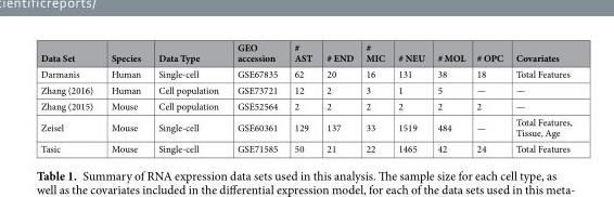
<table><thead><tr><td>Data Set</td><td>Species</td><td>Data Type</td><td>GEO accession</td><td># AST</td><td># END</td><td># MIC</td><td># NEU</td><td># MOL</td><td># OPC</td><td>Covariates</td></tr></thead><tbody><tr><td>Darmanis</td><td>Human</td><td>Single-cell</td><td>GSE67835</td><td>62</td><td>20</td><td>16</td><td>131</td><td>38</td><td>18</td><td>Total Features</td></tr><tr><td>Zhang (2016)</td><td>Human</td><td>Cell population</td><td>GSE73721</td><td>12</td><td>2</td><td>3</td><td>1</td><td>5</td><td>—</td><td>—</td></tr><tr><td>Zhang (2015)</td><td>Mouse</td><td>Cell population</td><td>GSE52564</td><td>2</td><td>2</td><td>2</td><td>2</td><td>2</td><td>2</td><td>—</td></tr><tr><td>Zeisel</td><td>Mouse</td><td>Single-cell</td><td>GSE60361</td><td>129</td><td>137</td><td>33</td><td>1519</td><td>484</td><td>—</td><td>Total Features, Tissue, Age</td></tr><tr><td>Tasic</td><td>Mouse</td><td>Single-cell</td><td>GSE71585</td><td>50</td><td>21</td><td>22</td><td>1465</td><td>42</td><td>24</td><td>Total Features</td></tr></tbody></table>